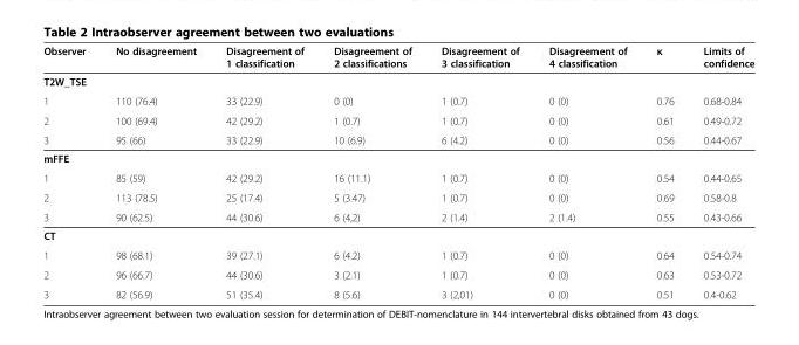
<table><thead><tr><td>Observer</td><td>No disagreement</td><td>Disagreement of 1 classification</td><td>Disagreement of 2 classifications</td><td>Disagreement of 3 classification</td><td>Disagreement of 4 classification</td><td>κ</td><td>Limits of confidence</td></tr></thead><tbody><tr><td colspan="8">T2W_TSE</td></tr><tr><td>1</td><td>110 (76.4)</td><td>33 (22.9)</td><td>0 (0)</td><td>1 (0.7)</td><td>0 (0)</td><td>0.76</td><td>0.68-0.84</td></tr><tr><td>2</td><td>100 (69.4)</td><td>42 (29.2)</td><td>1 (0.7)</td><td>1 (0.7)</td><td>0 (0)</td><td>0.61</td><td>0.49-0.72</td></tr><tr><td>3</td><td>95 (66)</td><td>33 (22.9)</td><td>10 (6.9)</td><td>6 (4.2)</td><td>0 (0)</td><td>0.56</td><td>0.44-0.67</td></tr><tr><td colspan="8">mFFE</td></tr><tr><td>1</td><td>85 (59)</td><td>42 (29.2)</td><td>16 (11.1)</td><td>1 (0.7)</td><td>0 (0)</td><td>0.54</td><td>0.44-0.65</td></tr><tr><td>2</td><td>113 (78.5)</td><td>25 (17.4)</td><td>5 (3.47)</td><td>1 (0.7)</td><td>0 (0)</td><td>0.69</td><td>0.58-0.8</td></tr><tr><td>3</td><td>90 (62.5)</td><td>44 (30.6)</td><td>6 (4,2)</td><td>2 (1.4)</td><td>2 (1.4)</td><td>0.55</td><td>0.43-0.66</td></tr><tr><td colspan="8">CT</td></tr><tr><td>1</td><td>98 (68.1)</td><td>39 (27.1)</td><td>6 (4.2)</td><td>1 (0.7)</td><td>0 (0)</td><td>0.64</td><td>0.54-0.74</td></tr><tr><td>2</td><td>96 (66.7)</td><td>44 (30.6)</td><td>3 (2.1)</td><td>1 (0.7)</td><td>0 (0)</td><td>0.63</td><td>0.53-0.72</td></tr><tr><td>3</td><td>82 (56.9)</td><td>51 (35.4)</td><td>8 (5.6)</td><td>3 (2,01)</td><td>0 (0)</td><td>0.51</td><td>0.4-0.62</td></tr></tbody></table>